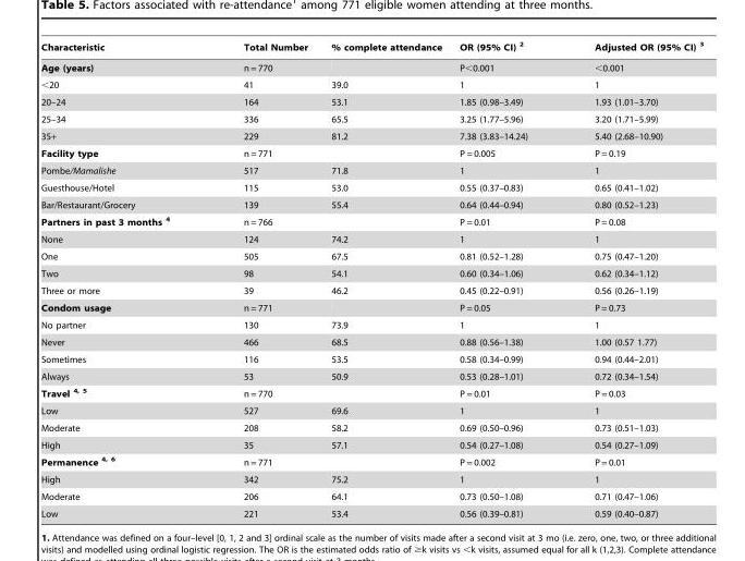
<table><thead><tr><td>Characteristic</td><td>Total Number</td><td>% complete attendance</td><td>OR (95% CI) 2</td><td>Adjusted OR (95% CI) 3</td></tr></thead><tbody><tr><td>Age (years)</td><td>n = 770</td><td></td><td>P&lt;0.001</td><td>&lt;0.001</td></tr><tr><td>&lt;20</td><td>41</td><td>39.0</td><td>1</td><td>1</td></tr><tr><td>20–24</td><td>164</td><td>53.1</td><td>1.85 (0.98–3.49)</td><td>1.93 (1.01–3.70)</td></tr><tr><td>25–34</td><td>336</td><td>65.5</td><td>3.25 (1.77–5.96)</td><td>3.20 (1.71–5.99)</td></tr><tr><td>35+</td><td>229</td><td>81.2</td><td>7.38 (3.83–14.24)</td><td>5.40 (2.68–10.90)</td></tr><tr><td>Facility type</td><td>n = 771</td><td></td><td>P = 0.005</td><td>P = 0.19</td></tr><tr><td>Pombe/Mamalishe</td><td>517</td><td>71.8</td><td>1</td><td>1</td></tr><tr><td>Guesthouse/Hotel</td><td>115</td><td>53.0</td><td>0.55 (0.37–0.83)</td><td>0.65 (0.41–1.02)</td></tr><tr><td>Bar/Restaurant/Grocery</td><td>139</td><td>55.4</td><td>0.64 (0.44–0.94)</td><td>0.80 (0.52–1.23)</td></tr><tr><td>Partners in past 3 months 4</td><td>n = 766</td><td></td><td>P = 0.01</td><td>P = 0.08</td></tr><tr><td>None</td><td>124</td><td>74.2</td><td>1</td><td>1</td></tr><tr><td>One</td><td>505</td><td>67.5</td><td>0.81 (0.52–1.28)</td><td>0.75 (0.47–1.20)</td></tr><tr><td>Two</td><td>98</td><td>54.1</td><td>0.60 (0.34–1.06)</td><td>0.62 (0.34–1.12)</td></tr><tr><td>Three or more</td><td>39</td><td>46.2</td><td>0.45 (0.22–0.91)</td><td>0.56 (0.26–1.19)</td></tr><tr><td>Condom usage</td><td>n = 771</td><td></td><td>P = 0.05</td><td>P = 0.73</td></tr><tr><td>No partner</td><td>130</td><td>73.9</td><td>1</td><td>1</td></tr><tr><td>Never</td><td>466</td><td>68.5</td><td>0.88 (0.56–1.38)</td><td>1.00 (0.57 1.77)</td></tr><tr><td>Sometimes</td><td>116</td><td>53.5</td><td>0.58 (0.34–0.99)</td><td>0.94 (0.44–2.01)</td></tr><tr><td>Always</td><td>53</td><td>50.9</td><td>0.53 (0.28–1.01)</td><td>0.72 (0.34–1.54)</td></tr><tr><td>Travel 4, 5</td><td>n = 770</td><td></td><td>P = 0.01</td><td>P = 0.03</td></tr><tr><td>Low</td><td>527</td><td>69.6</td><td>1</td><td>1</td></tr><tr><td>Moderate</td><td>208</td><td>58.2</td><td>0.69 (0.50–0.96)</td><td>0.73 (0.51–1.03)</td></tr><tr><td>High</td><td>35</td><td>57.1</td><td>0.54 (0.27–1.08)</td><td>0.54 (0.27–1.09)</td></tr><tr><td>Permanence 4, 6</td><td>n = 771</td><td></td><td>P = 0.002</td><td>P = 0.01</td></tr><tr><td>High</td><td>342</td><td>75.2</td><td>1</td><td>1</td></tr><tr><td>Moderate</td><td>206</td><td>64.1</td><td>0.73 (0.50–1.08)</td><td>0.71 (0.47–1.06)</td></tr><tr><td>Low</td><td>221</td><td>53.4</td><td>0.56 (0.39–0.81)</td><td>0.59 (0.40–0.87)</td></tr></tbody></table>